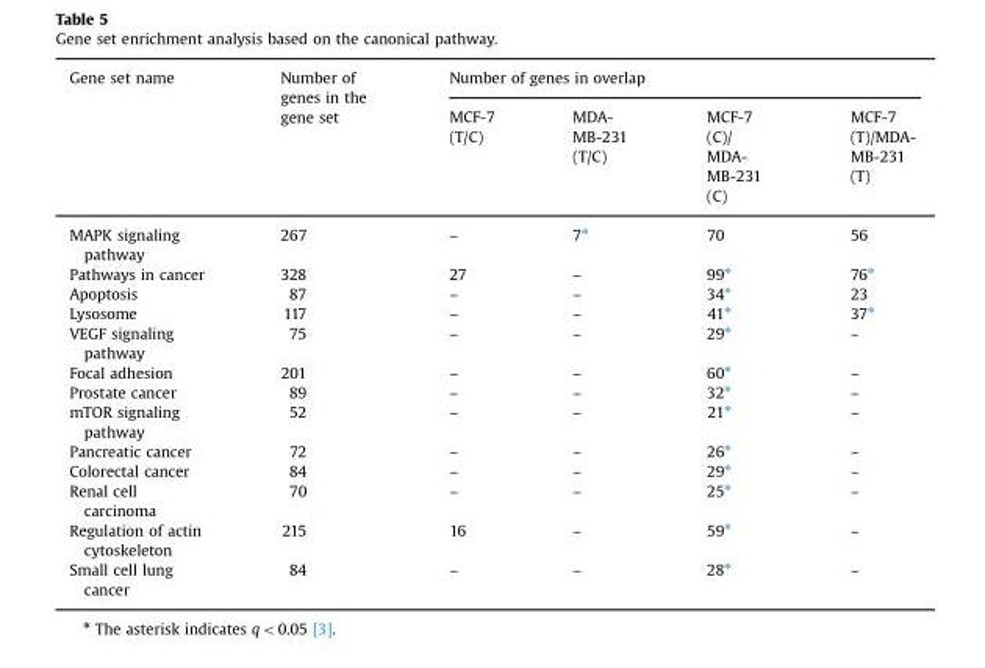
<table><thead><tr><td rowspan="2">Gene set name</td><td rowspan="2">Number of genes in the gene set</td><td colspan="4">Number of genes in overlap</td></tr><tr><td>MCF-7 (T/C)</td><td>MDA- MB-231 (T/C)</td><td>MCF-7 (C)/ MDA- MB-231 (C)</td><td>MCF-7 (T)/MDA- MB-231 (T)</td></tr></thead><tbody><tr><td>MAPK signaling pathway</td><td>267</td><td>–</td><td>7⁎</td><td>70</td><td>56</td></tr><tr><td>Pathways in cancer</td><td>328</td><td>27</td><td>–</td><td>99⁎</td><td>76⁎</td></tr><tr><td>Apoptosis</td><td>87</td><td>–</td><td>–</td><td>34⁎</td><td>23</td></tr><tr><td>Lysosome</td><td>117</td><td>–</td><td>–</td><td>41⁎</td><td>37⁎</td></tr><tr><td>VEGF signaling pathway</td><td>75</td><td>–</td><td>–</td><td>29⁎</td><td>–</td></tr><tr><td>Focal adhesion</td><td>201</td><td>–</td><td>–</td><td>60⁎</td><td>–</td></tr><tr><td>Prostate cancer</td><td>89</td><td>–</td><td>–</td><td>32⁎</td><td>–</td></tr><tr><td>mTOR signaling pathway</td><td>52</td><td>–</td><td>–</td><td>21⁎</td><td>–</td></tr><tr><td>Pancreatic cancer</td><td>72</td><td>–</td><td>–</td><td>26⁎</td><td>–</td></tr><tr><td>Colorectal cancer</td><td>84</td><td>–</td><td>–</td><td>29⁎</td><td>–</td></tr><tr><td>Renal cell carcinoma</td><td>70</td><td>–</td><td>–</td><td>25⁎</td><td>–</td></tr><tr><td>Regulation of actin cytoskeleton</td><td>215</td><td>16</td><td>–</td><td>59⁎</td><td>–</td></tr><tr><td>Small cell lung cancer</td><td>84</td><td>–</td><td>–</td><td>28⁎</td><td>–</td></tr></tbody></table>